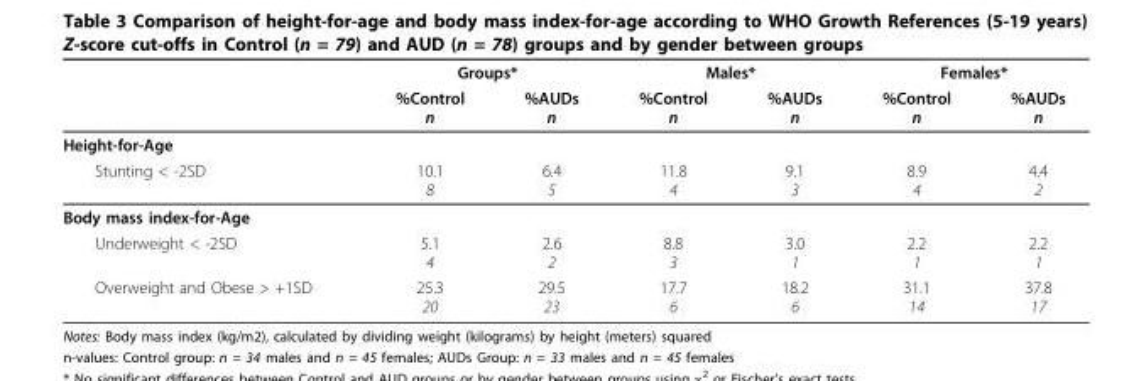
<table><thead><tr><td rowspan="2"></td><td colspan="2">Groups*</td><td colspan="2">Males*</td><td colspan="2">Females*</td></tr><tr><td>%Control n</td><td>%AUDs n</td><td>%Control n</td><td>%AUDs n</td><td>%Control n</td><td>%AUDs n</td></tr></thead><tbody><tr><td colspan="7">Height-for-Age</td></tr><tr><td>Stunting &lt; -2SD</td><td>10.1 8</td><td>6.4 5</td><td>11.8 4</td><td>9.1 3</td><td>8.9 4</td><td>4.4 2</td></tr><tr><td colspan="7">Body mass index-for-Age</td></tr><tr><td>Underweight &lt; -2SD</td><td>5.1 4</td><td>2.6 2</td><td>8.8 3</td><td>3.0 1</td><td>2.2 1</td><td>2.2 1</td></tr><tr><td>Overweight and Obese &gt; +1SD</td><td>25.3 20</td><td>29.5 23</td><td>17.7 6</td><td>18.2 6</td><td>31.1 14</td><td>37.8 17</td></tr></tbody></table>